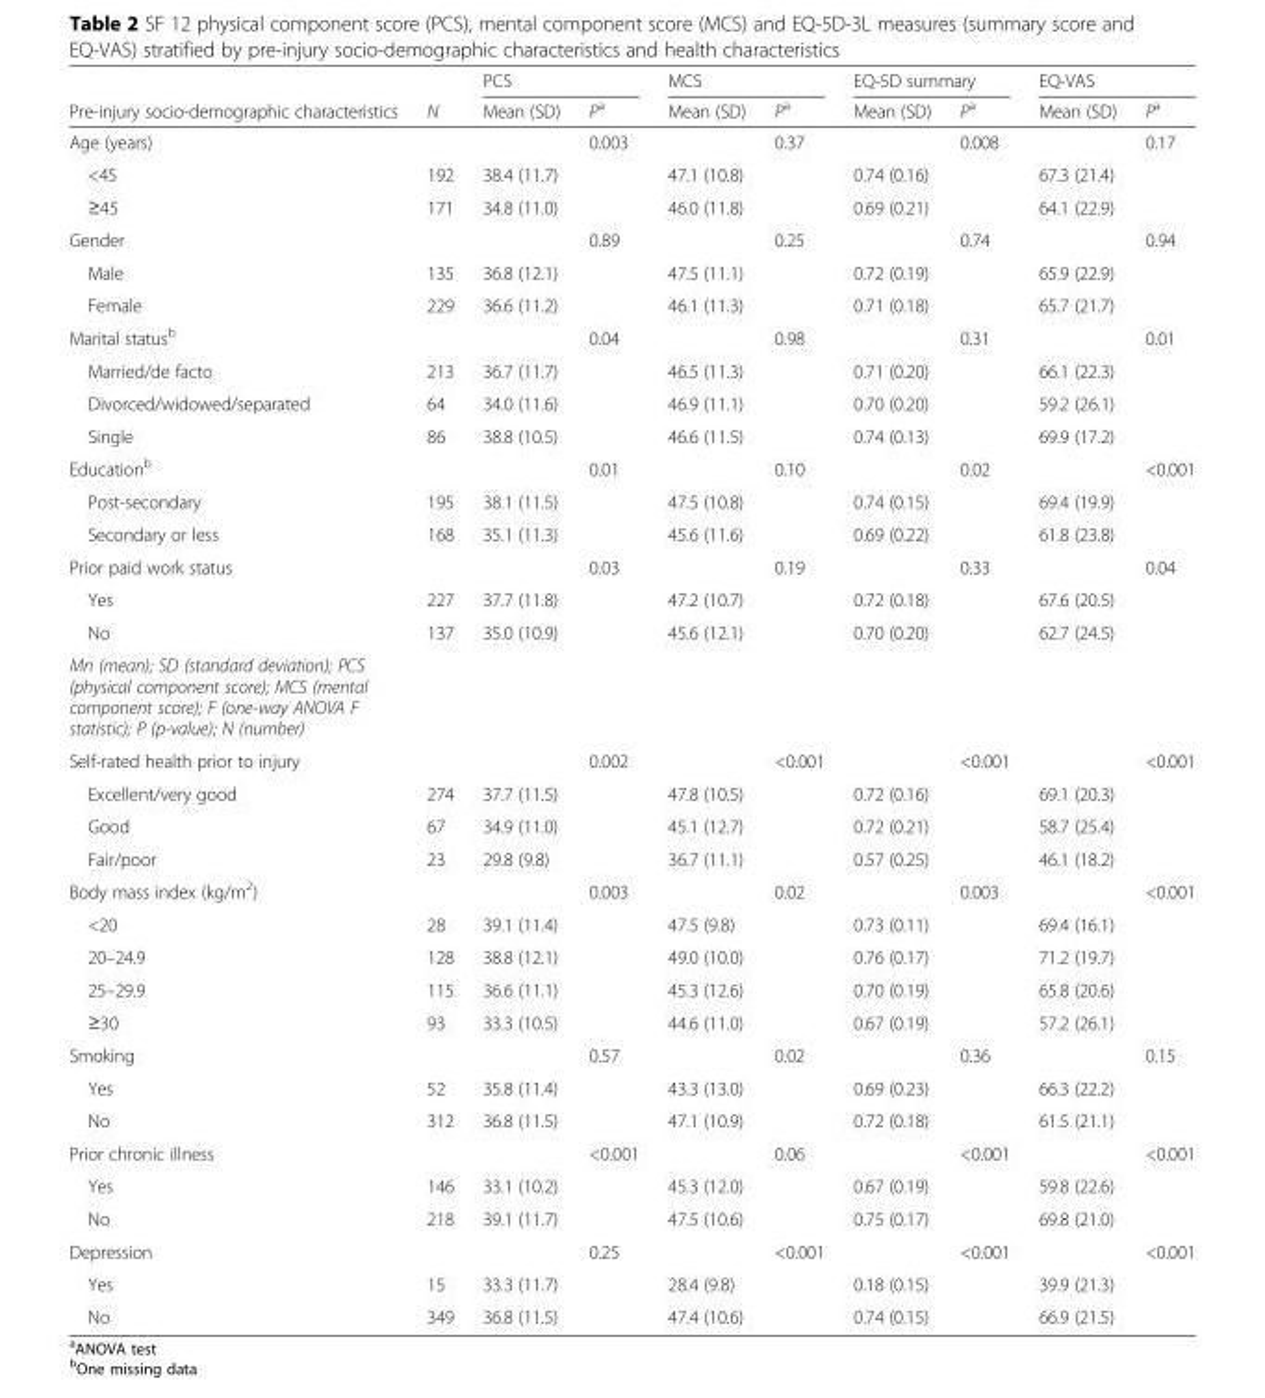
<table><thead><tr><td rowspan="2">Pre-injury socio-demographic characteristics</td><td rowspan="2">N</td><td colspan="2">PCS</td><td colspan="2">MCS</td><td colspan="2">EQ-5D summary</td><td colspan="2">EQ-VAS</td></tr><tr><td>Mean (SD)</td><td>P<sup>a</sup></td><td>Mean (SD)</td><td>P<sup>a</sup></td><td>Mean (SD)</td><td>P<sup>a</sup></td><td>Mean (SD)</td><td>P<sup>a</sup></td></tr></thead><tbody><tr><td>Age (years)</td><td></td><td></td><td>0.003</td><td></td><td>0.37</td><td></td><td>0.008</td><td></td><td>0.17</td></tr><tr><td>&lt;45</td><td>192</td><td>38.4 (11.7)</td><td></td><td>47.1 (10.8)</td><td></td><td>0.74 (0.16)</td><td></td><td>67.3 (21.4)</td><td></td></tr><tr><td>≥45</td><td>171</td><td>34.8 (11.0)</td><td></td><td>46.0 (11.8)</td><td></td><td>0.69 (0.21)</td><td></td><td>64.1 (22.9)</td><td></td></tr><tr><td>Gender</td><td></td><td></td><td>0.89</td><td></td><td>0.25</td><td></td><td>0.74</td><td></td><td>0.94</td></tr><tr><td>Male</td><td>135</td><td>36.8 (12.1)</td><td></td><td>47.5 (11.1)</td><td></td><td>0.72 (0.19)</td><td></td><td>65.9 (22.9)</td><td></td></tr><tr><td>Female</td><td>229</td><td>36.6 (11.2)</td><td></td><td>46.1 (11.3)</td><td></td><td>0.71 (0.18)</td><td></td><td>65.7 (21.7)</td><td></td></tr><tr><td>Marital status<sup>b</sup></td><td></td><td></td><td>0.04</td><td></td><td>0.98</td><td></td><td>0.31</td><td></td><td>0.01</td></tr><tr><td>Married/de facto</td><td>213</td><td>36.7 (11.7)</td><td></td><td>46.5 (11.3)</td><td></td><td>0.71 (0.20)</td><td></td><td>66.1 (22.3)</td><td></td></tr><tr><td>Divorced/widowed/separated</td><td>64</td><td>34.0 (11.6)</td><td></td><td>46.9 (11.1)</td><td></td><td>0.70 (0.20)</td><td></td><td>59.2 (26.1)</td><td></td></tr><tr><td>Single</td><td>86</td><td>38.8 (10.5)</td><td></td><td>46.6 (11.5)</td><td></td><td>0.74 (0.13)</td><td></td><td>69.9 (17.2)</td><td></td></tr><tr><td>Education<sup>b</sup></td><td></td><td></td><td>0.01</td><td></td><td>0.10</td><td></td><td>0.02</td><td></td><td>&lt;0.001</td></tr><tr><td>Post-secondary</td><td>195</td><td>38.1 (11.5)</td><td></td><td>47.5 (10.8)</td><td></td><td>0.74 (0.15)</td><td></td><td>69.4 (19.9)</td><td></td></tr><tr><td>Secondary or less</td><td>168</td><td>35.1 (11.3)</td><td></td><td>45.6 (11.6)</td><td></td><td>0.69 (0.22)</td><td></td><td>61.8 (23.8)</td><td></td></tr><tr><td>Prior paid work status</td><td></td><td></td><td>0.03</td><td></td><td>0.19</td><td></td><td>0.33</td><td></td><td>0.04</td></tr><tr><td>Yes</td><td>227</td><td>37.7 (11.8)</td><td></td><td>47.2 (10.7)</td><td></td><td>0.72 (0.18)</td><td></td><td>67.6 (20.5)</td><td></td></tr><tr><td>No</td><td>137</td><td>35.0 (10.9)</td><td></td><td>45.6 (12.1)</td><td></td><td>0.70 (0.20)</td><td></td><td>62.7 (24.5)</td><td></td></tr><tr><td colspan="10">Mn (mean); SD (standard deviation); PCS (physical component score); MCS (mental component score); F (one-way ANOVA F statistic); P (p-value); N (number)</td></tr><tr><td>Self-rated health prior to injury</td><td></td><td></td><td>0.002</td><td></td><td>&lt;0.001</td><td></td><td>&lt;0.001</td><td></td><td>&lt;0.001</td></tr><tr><td>Excellent/very good</td><td>274</td><td>37.7 (11.5)</td><td></td><td>47.8 (10.5)</td><td></td><td>0.72 (0.16)</td><td></td><td>69.1 (20.3)</td><td></td></tr><tr><td>Good</td><td>67</td><td>34.9 (11.0)</td><td></td><td>45.1 (12.7)</td><td></td><td>0.72 (0.21)</td><td></td><td>58.7 (25.4)</td><td></td></tr><tr><td>Fair/poor</td><td>23</td><td>29.8 (9.8)</td><td></td><td>36.7 (11.1)</td><td></td><td>0.57 (0.25)</td><td></td><td>46.1 (18.2)</td><td></td></tr><tr><td>Body mass index (kg/m<sup>2</sup>)</td><td></td><td></td><td>0.003</td><td></td><td>0.02</td><td></td><td>0.003</td><td></td><td>&lt;0.001</td></tr><tr><td>&lt;20</td><td>28</td><td>39.1 (11.4)</td><td></td><td>47.5 (9.8)</td><td></td><td>0.73 (0.11)</td><td></td><td>69.4 (16.1)</td><td></td></tr><tr><td>20–24.9</td><td>128</td><td>38.8 (12.1)</td><td></td><td>49.0 (10.0)</td><td></td><td>0.76 (0.17)</td><td></td><td>71.2 (19.7)</td><td></td></tr><tr><td>25–29.9</td><td>115</td><td>36.6 (11.1)</td><td></td><td>45.3 (12.6)</td><td></td><td>0.70 (0.19)</td><td></td><td>65.8 (20.6)</td><td></td></tr><tr><td>≥30</td><td>93</td><td>33.3 (10.5)</td><td></td><td>44.6 (11.0)</td><td></td><td>0.67 (0.19)</td><td></td><td>57.2 (26.1)</td><td></td></tr><tr><td>Smoking</td><td></td><td></td><td>0.57</td><td></td><td>0.02</td><td></td><td>0.36</td><td></td><td>0.15</td></tr><tr><td>Yes</td><td>52</td><td>35.8 (11.4)</td><td></td><td>43.3 (13.0)</td><td></td><td>0.69 (0.23)</td><td></td><td>66.3 (22.2)</td><td></td></tr><tr><td>No</td><td>312</td><td>36.8 (11.5)</td><td></td><td>47.1 (10.9)</td><td></td><td>0.72 (0.18)</td><td></td><td>61.5 (21.1)</td><td></td></tr><tr><td>Prior chronic illness</td><td></td><td></td><td>&lt;0.001</td><td></td><td>0.06</td><td></td><td>&lt;0.001</td><td></td><td>&lt;0.001</td></tr><tr><td>Yes</td><td>146</td><td>33.1 (10.2)</td><td></td><td>45.3 (12.0)</td><td></td><td>0.67 (0.19)</td><td></td><td>59.8 (22.6)</td><td></td></tr><tr><td>No</td><td>218</td><td>39.1 (11.7)</td><td></td><td>47.5 (10.6)</td><td></td><td>0.75 (0.17)</td><td></td><td>69.8 (21.0)</td><td></td></tr><tr><td>Depression</td><td></td><td></td><td>0.25</td><td></td><td>&lt;0.001</td><td></td><td>&lt;0.001</td><td></td><td>&lt;0.001</td></tr><tr><td>Yes</td><td>15</td><td>33.3 (11.7)</td><td></td><td>28.4 (9.8)</td><td></td><td>0.18 (0.15)</td><td></td><td>39.9 (21.3)</td><td></td></tr><tr><td>No</td><td>349</td><td>36.8 (11.5)</td><td></td><td>47.4 (10.6)</td><td></td><td>0.74 (0.15)</td><td></td><td>66.9 (21.5)</td><td></td></tr></tbody></table>